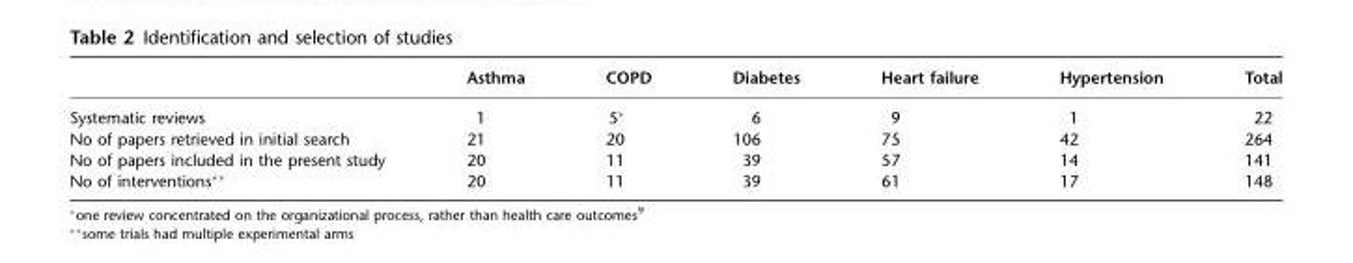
<table><thead><tr><td></td><td>Asthma</td><td>COPD</td><td>Diabetes</td><td>Heart failure</td><td>Hypertension</td><td>Total</td></tr></thead><tbody><tr><td>Systematic reviews</td><td>1</td><td>5*</td><td>6</td><td>9</td><td>1</td><td>22</td></tr><tr><td>No of papers retrieved in initial search</td><td>21</td><td>20</td><td>106</td><td>75</td><td>42</td><td>264</td></tr><tr><td>No of papers included in the present study</td><td>20</td><td>11</td><td>39</td><td>57</td><td>14</td><td>141</td></tr><tr><td>No of interventions**</td><td>20</td><td>11</td><td>39</td><td>61</td><td>17</td><td>148</td></tr></tbody></table>